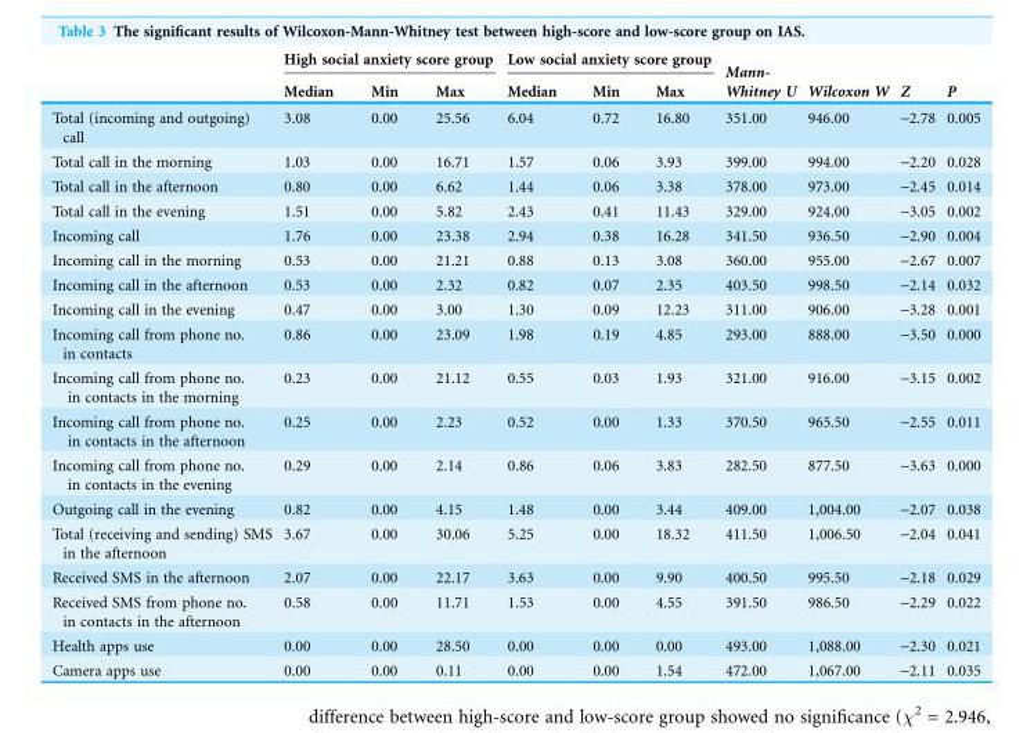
<table><thead><tr><td rowspan="2"></td><td colspan="3">High social anxiety score group</td><td colspan="3">Low social anxiety score group</td><td rowspan="2">Mann- Whitney U</td><td rowspan="2">Wilcoxon W</td><td rowspan="2">Z</td><td rowspan="2">P</td></tr><tr><td>Median</td><td>Min</td><td>Max</td><td>Median</td><td>Min</td><td>Max</td></tr></thead><tbody><tr><td>Total (incoming and outgoing) call</td><td>3.08</td><td>0.00</td><td>25.56</td><td>6.04</td><td>0.72</td><td>16.80</td><td>351.00</td><td>946.00</td><td>-2.78</td><td>0.005</td></tr><tr><td>Total call in the morning</td><td>1.03</td><td>0.00</td><td>16.71</td><td>1.57</td><td>0.06</td><td>3.93</td><td>399.00</td><td>994.00</td><td>-2.20</td><td>0.028</td></tr><tr><td>Total call in the afternoon</td><td>0.80</td><td>0.00</td><td>6.62</td><td>1.44</td><td>0.06</td><td>3.38</td><td>378.00</td><td>973.00</td><td>-2.45</td><td>0.014</td></tr><tr><td>Total call in the evening</td><td>1.51</td><td>0.00</td><td>5.82</td><td>2.43</td><td>0.41</td><td>11.43</td><td>329.00</td><td>924.00</td><td>-3.05</td><td>0.002</td></tr><tr><td>Incoming call</td><td>1.76</td><td>0.00</td><td>23.38</td><td>2.94</td><td>0.38</td><td>16.28</td><td>341.50</td><td>936.50</td><td>-2.90</td><td>0.004</td></tr><tr><td>Incoming call in the morning</td><td>0.53</td><td>0.00</td><td>21.21</td><td>0.88</td><td>0.13</td><td>3.08</td><td>360.00</td><td>955.00</td><td>-2.67</td><td>0.007</td></tr><tr><td>Incoming call in the afternoon</td><td>0.53</td><td>0.00</td><td>2.32</td><td>0.82</td><td>0.07</td><td>2.35</td><td>403.50</td><td>998.50</td><td>-2.14</td><td>0.032</td></tr><tr><td>Incoming call in the evening</td><td>0.47</td><td>0.00</td><td>3.00</td><td>1.30</td><td>0.09</td><td>12.23</td><td>311.00</td><td>906.00</td><td>-3.28</td><td>0.001</td></tr><tr><td>Incoming call from phone no. in contacts</td><td>0.86</td><td>0.00</td><td>23.09</td><td>1.98</td><td>0.19</td><td>4.85</td><td>293.00</td><td>888.00</td><td>-3.50</td><td>0.000</td></tr><tr><td>Incoming call from phone no. in contacts in the morning</td><td>0.23</td><td>0.00</td><td>21.12</td><td>0.55</td><td>0.03</td><td>1.93</td><td>321.00</td><td>916.00</td><td>-3.15</td><td>0.002</td></tr><tr><td>Incoming call from phone no. in contacts in the afternoon</td><td>0.25</td><td>0.00</td><td>2.23</td><td>0.52</td><td>0.00</td><td>1.33</td><td>370.50</td><td>965.50</td><td>-2.55</td><td>0.011</td></tr><tr><td>Incoming call from phone no. in contacts in the evening</td><td>0.29</td><td>0.00</td><td>2.14</td><td>0.86</td><td>0.06</td><td>3.83</td><td>282.50</td><td>877.50</td><td>-3.63</td><td>0.000</td></tr><tr><td>Outgoing call in the evening</td><td>0.82</td><td>0.00</td><td>4.15</td><td>1.48</td><td>0.00</td><td>3.44</td><td>409.00</td><td>1,004.00</td><td>-2.07</td><td>0.038</td></tr><tr><td>Total (receiving and sending) SMS in the afternoon</td><td>3.67</td><td>0.00</td><td>30.06</td><td>5.25</td><td>0.00</td><td>18.32</td><td>411.50</td><td>1,006.50</td><td>-2.04</td><td>0.041</td></tr><tr><td>Received SMS in the afternoon</td><td>2.07</td><td>0.00</td><td>22.17</td><td>3.63</td><td>0.00</td><td>9.90</td><td>400.50</td><td>995.50</td><td>-2.18</td><td>0.029</td></tr><tr><td>Received SMS from phone no. in contacts in the afternoon</td><td>0.58</td><td>0.00</td><td>11.71</td><td>1.53</td><td>0.00</td><td>4.55</td><td>391.50</td><td>986.50</td><td>-2.29</td><td>0.022</td></tr><tr><td>Health apps use</td><td>0.00</td><td>0.00</td><td>28.50</td><td>0.00</td><td>0.00</td><td>0.00</td><td>493.00</td><td>1,088.00</td><td>-2.30</td><td>0.021</td></tr><tr><td>Camera apps use</td><td>0.00</td><td>0.00</td><td>0.11</td><td>0.00</td><td>0.00</td><td>1.54</td><td>472.00</td><td>1,067.00</td><td>-2.11</td><td>0.035</td></tr></tbody></table>